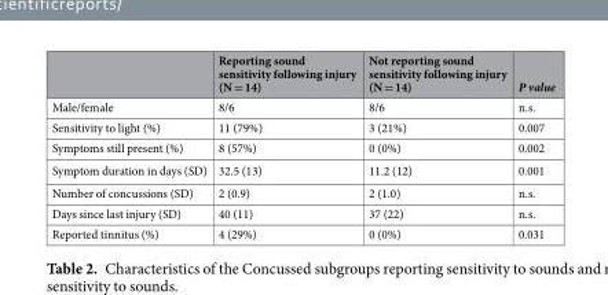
<table><thead><tr><td></td><td>Reporting sound sensitivity following injury (N = 14)</td><td>Not reporting sound sensitivity following injury (N = 14)</td><td>P value</td></tr></thead><tbody><tr><td>Male/female</td><td>8/6</td><td>8/6</td><td>n.s.</td></tr><tr><td>Sensitivity to light (%)</td><td>11 (79%)</td><td>3 (21%)</td><td>0.007</td></tr><tr><td>Symptoms still present (%)</td><td>8 (57%)</td><td>0 (0%)</td><td>0.002</td></tr><tr><td>Symptom duration in days (SD)</td><td>32.5 (13)</td><td>11.2 (12)</td><td>0.001</td></tr><tr><td>Number of concussions (SD)</td><td>2 (0.9)</td><td>2 (1.0)</td><td>n.s.</td></tr><tr><td>Days since last injury (SD)</td><td>40 (11)</td><td>37 (22)</td><td>n.s.</td></tr><tr><td>Reported tinnitus (%)</td><td>4 (29%)</td><td>0 (0%)</td><td>0.031</td></tr></tbody></table>